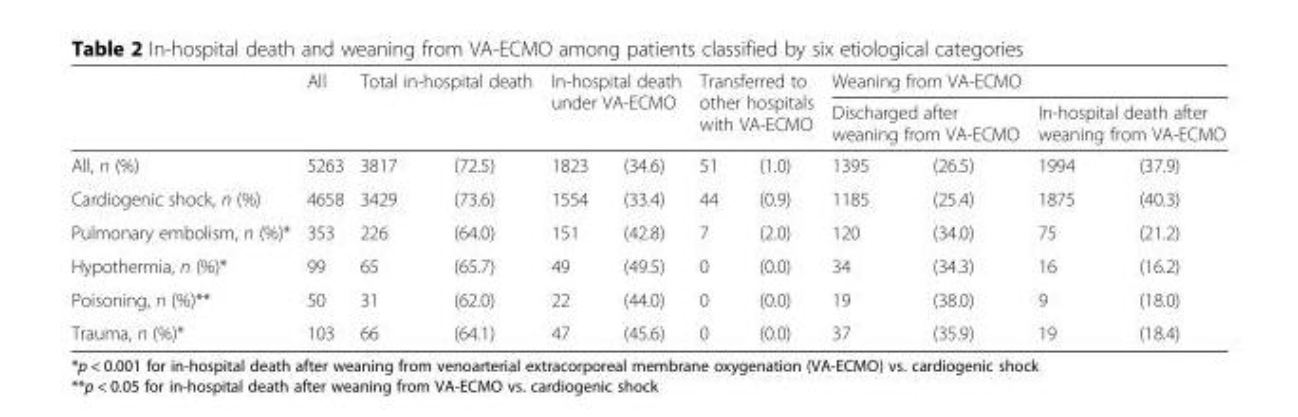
<table><thead><tr><td rowspan="3">All, n (%)</td><td rowspan="3">All 5263</td><td rowspan="2" colspan="2">Total in-hospital death</td><td rowspan="2" colspan="2">In-hospital death under VA-ECMO</td><td rowspan="2" colspan="2">Transferred to other hospitals with VA-ECMO</td><td colspan="4">Weaning from VA-ECMO</td></tr><tr><td colspan="2">Discharged after weaning from VA-ECMO</td><td colspan="2">In-hospital death after weaning from VA-ECMO</td></tr><tr><td>3817</td><td>(72.5)</td><td>1823</td><td>(34.6)</td><td>51</td><td>(1.0)</td><td>1395</td><td>(26.5)</td><td>1994</td><td>(37.9)</td></tr></thead><tbody><tr><td>Cardiogenic shock, n (%)</td><td>4658</td><td>3429</td><td>(73.6)</td><td>1554</td><td>(33.4)</td><td>44</td><td>(0.9)</td><td>1185</td><td>(25.4)</td><td>1875</td><td>(40.3)</td></tr><tr><td>Pulmonary embolism, n (%)*</td><td>353</td><td>226</td><td>(64.0)</td><td>151</td><td>(42.8)</td><td>7</td><td>(2.0)</td><td>120</td><td>(34.0)</td><td>75</td><td>(21.2)</td></tr><tr><td>Hypothermia, n (%)*</td><td>99</td><td>65</td><td>(65.7)</td><td>49</td><td>(49.5)</td><td>0</td><td>(0.0)</td><td>34</td><td>(34.3)</td><td>16</td><td>(16.2)</td></tr><tr><td>Poisoning, n (%)**</td><td>50</td><td>31</td><td>(62.0)</td><td>22</td><td>(44.0)</td><td>0</td><td>(0.0)</td><td>19</td><td>(38.0)</td><td>9</td><td>(18.0)</td></tr><tr><td>Trauma, n (%)*</td><td>103</td><td>66</td><td>(64.1)</td><td>47</td><td>(45.6)</td><td>0</td><td>(0.0)</td><td>37</td><td>(35.9)</td><td>19</td><td>(18.4)</td></tr></tbody></table>